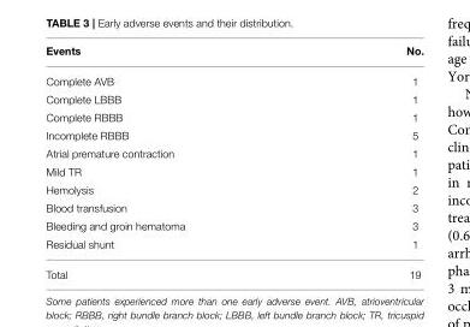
<table><thead><tr><td>Events</td><td>No.</td></tr></thead><tbody><tr><td>Complete AVB</td><td>1</td></tr><tr><td>Complete LBBB</td><td>1</td></tr><tr><td>Complete RBBB</td><td>1</td></tr><tr><td>Incomplete RBBB</td><td>5</td></tr><tr><td>Atrial premature contraction</td><td>1</td></tr><tr><td>Mild TR</td><td>1</td></tr><tr><td>Hemolysis</td><td>2</td></tr><tr><td>Blood transfusion</td><td>3</td></tr><tr><td>Bleeding and groin hematoma</td><td>3</td></tr><tr><td>Residual shunt</td><td>1</td></tr><tr><td>Total</td><td>19</td></tr></tbody></table>